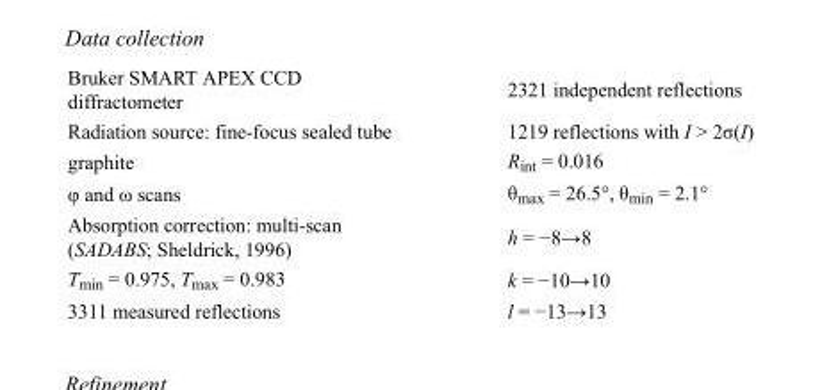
<table><tbody><tr><td>Bruker SMART APEX CCD diffractometer</td><td>2321 independent reflections</td></tr><tr><td>Radiation source: fine-focus sealed tube</td><td>1219 reflections with I &gt; 2σ(I)</td></tr><tr><td>graphite</td><td>R<sub>int</sub> = 0.016</td></tr><tr><td>φ and ω scans</td><td>θ<sub>max</sub> = 26.5°, θ<sub>min</sub> = 2.1°</td></tr><tr><td>Absorption correction: multi-scan (SADABS; Sheldrick, 1996)</td><td>h = −8→8</td></tr><tr><td>T<sub>min</sub> = 0.975, T<sub>max</sub> = 0.983</td><td>k = −10→10</td></tr><tr><td>3311 measured reflections</td><td>l = −13→13</td></tr></tbody></table>